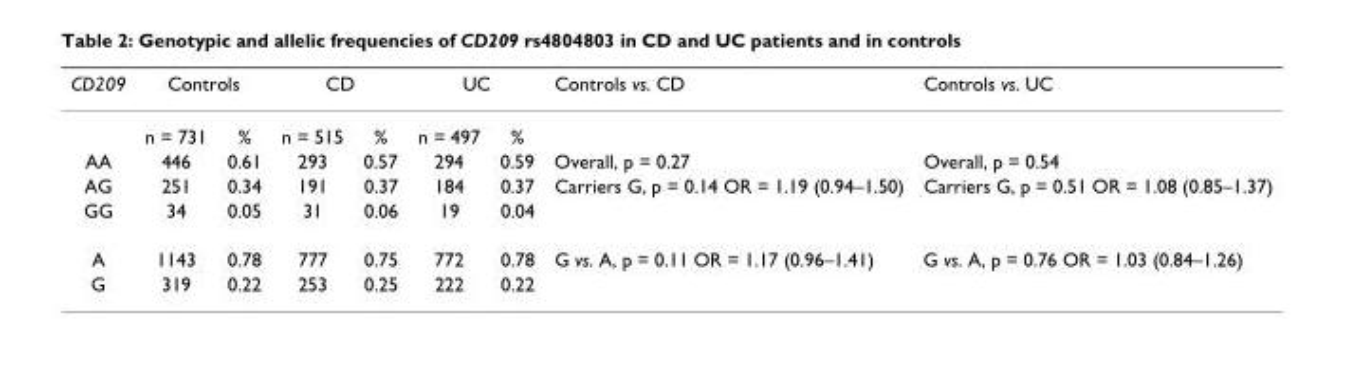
<table><thead><tr><td rowspan="2">CD209</td><td colspan="2">Controls</td><td colspan="2">CD</td><td colspan="2">UC</td><td rowspan="2">Controls vs. CD</td><td rowspan="2">Controls vs. UC</td></tr><tr><td>n = 731</td><td>%</td><td>n = 515</td><td>%</td><td>n = 497</td><td>%</td></tr></thead><tbody><tr><td>AA</td><td>446</td><td>0.61</td><td>293</td><td>0.57</td><td>294</td><td>0.59</td><td>Overall, p = 0.27</td><td>Overall, p = 0.54</td></tr><tr><td>AG</td><td>251</td><td>0.34</td><td>191</td><td>0.37</td><td>184</td><td>0.37</td><td>Carriers G, p = 0.14 OR = 1.19 (0.94–1.50)</td><td>Carriers G, p = 0.51 OR = 1.08 (0.85–1.37)</td></tr><tr><td>GG</td><td>34</td><td>0.05</td><td>31</td><td>0.06</td><td>19</td><td>0.04</td><td></td><td></td></tr><tr><td>A</td><td>1143</td><td>0.78</td><td>777</td><td>0.75</td><td>772</td><td>0.78</td><td>G vs. A, p = 0.11 OR = 1.17 (0.96–1.41)</td><td>G vs. A, p = 0.76 OR = 1.03 (0.84–1.26)</td></tr><tr><td>G</td><td>319</td><td>0.22</td><td>253</td><td>0.25</td><td>222</td><td>0.22</td><td></td><td></td></tr></tbody></table>